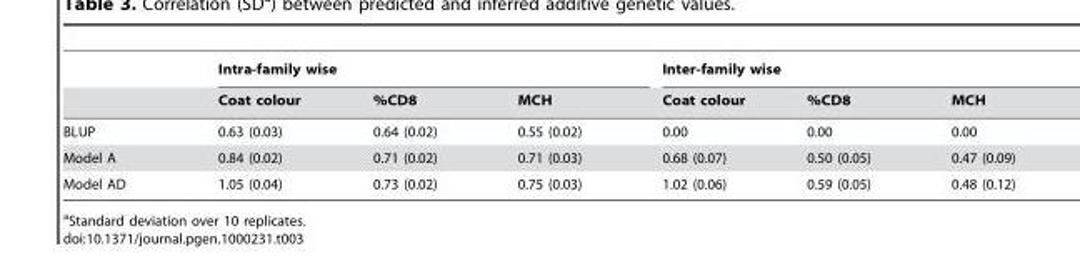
<table><thead><tr><td rowspan="2"></td><td colspan="3">Intra-family wise</td><td colspan="3">Inter-family wise</td></tr><tr><td>Coat colour</td><td>%CD8</td><td>MCH</td><td>Coat colour</td><td>%CD8</td><td>MCH</td></tr></thead><tbody><tr><td>BLUP</td><td>0.63 (0.03)</td><td>0.64 (0.02)</td><td>0.55 (0.02)</td><td>0.00</td><td>0.00</td><td>0.00</td></tr><tr><td>Model A</td><td>0.84 (0.02)</td><td>0.71 (0.02)</td><td>0.71 (0.03)</td><td>0.68 (0.07)</td><td>0.50 (0.05)</td><td>0.47 (0.09)</td></tr><tr><td>Model AD</td><td>1.05 (0.04)</td><td>0.73 (0.02)</td><td>0.75 (0.03)</td><td>1.02 (0.06)</td><td>0.59 (0.05)</td><td>0.48 (0.12)</td></tr></tbody></table>